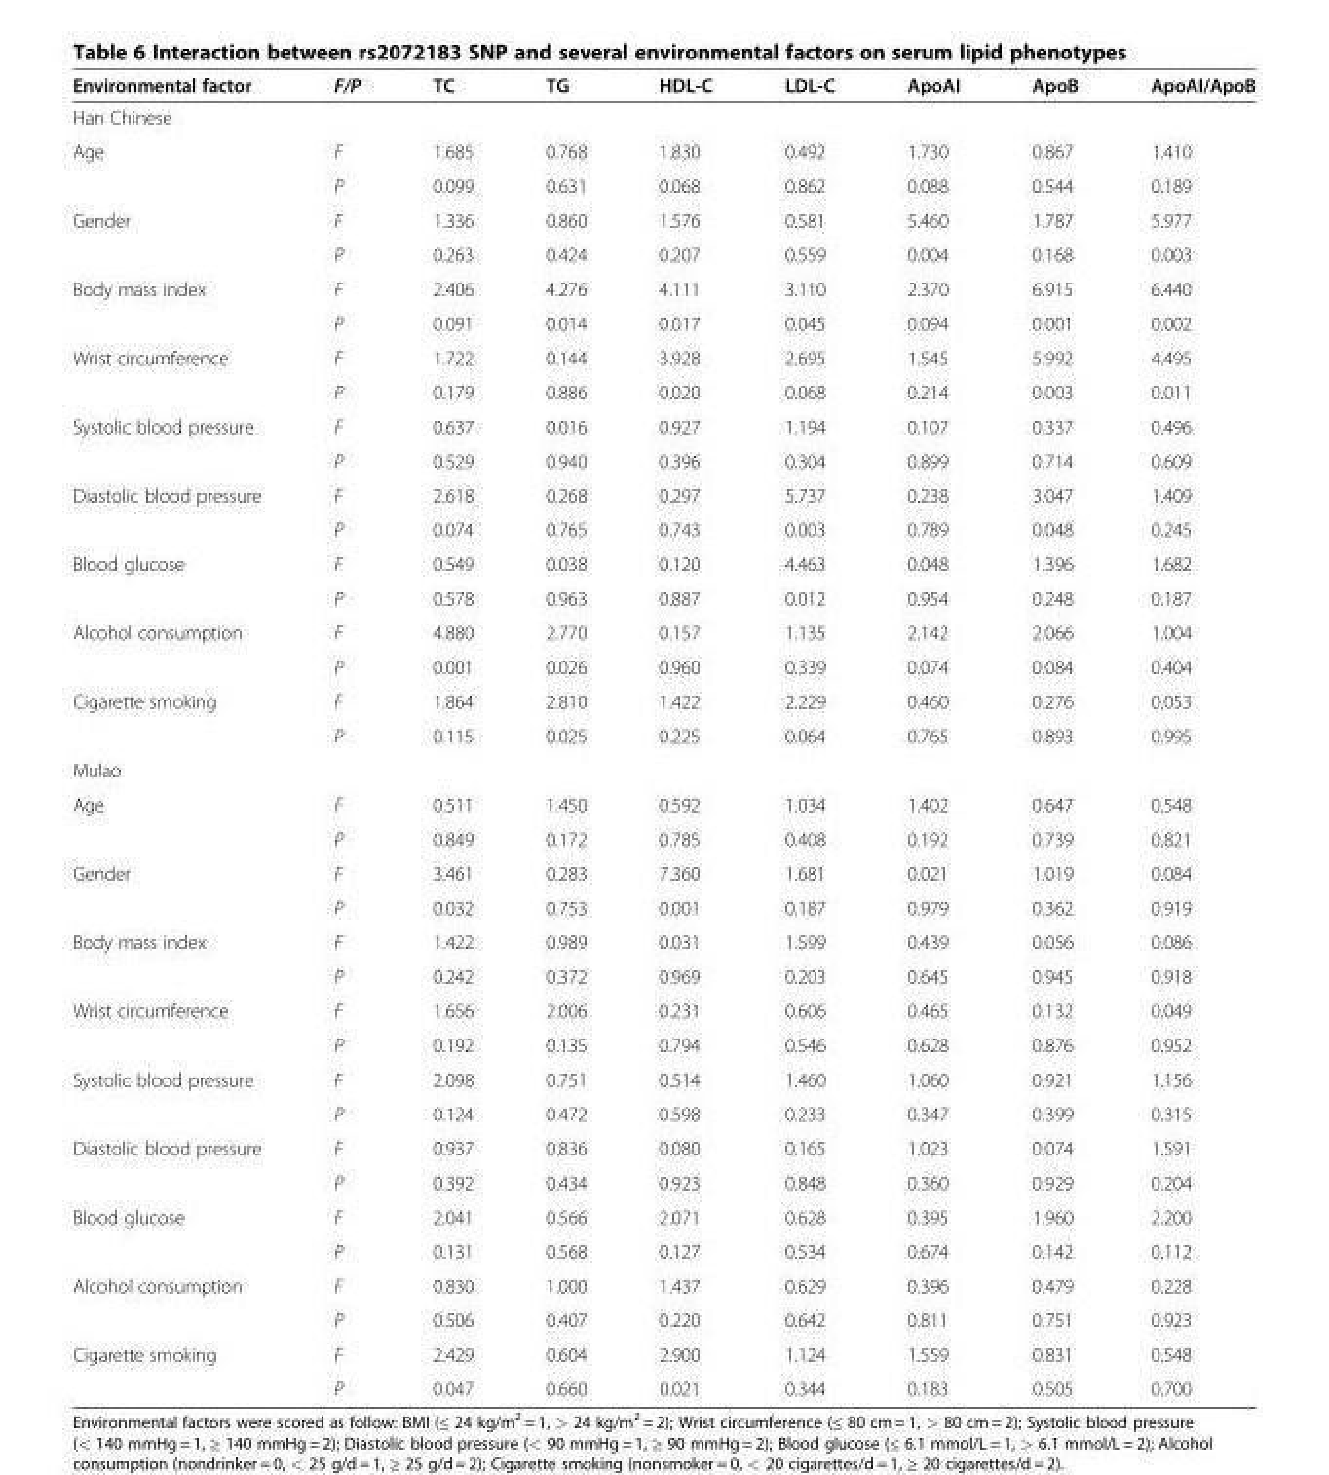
<table><thead><tr><td>Environmental factor</td><td>F/P</td><td>TC</td><td>TG</td><td>HDL-C</td><td>LDL-C</td><td>ApoAI</td><td>ApoB</td><td>ApoAI/ApoB</td></tr></thead><tbody><tr><td colspan="9">Han Chinese</td></tr><tr><td rowspan="2">Age</td><td>F</td><td>1.685</td><td>0.768</td><td>1.830</td><td>0.492</td><td>1.730</td><td>0.867</td><td>1.410</td></tr><tr><td>P</td><td>0.099</td><td>0.631</td><td>0.068</td><td>0.862</td><td>0.088</td><td>0.544</td><td>0.189</td></tr><tr><td rowspan="2">Gender</td><td>F</td><td>1.336</td><td>0.860</td><td>1.576</td><td>0.581</td><td>5.460</td><td>1.787</td><td>5.977</td></tr><tr><td>P</td><td>0.263</td><td>0.424</td><td>0.207</td><td>0.559</td><td>0.004</td><td>0.168</td><td>0.003</td></tr><tr><td rowspan="2">Body mass index</td><td>F</td><td>2.406</td><td>4.276</td><td>4.111</td><td>3.110</td><td>2.370</td><td>6.915</td><td>6.440</td></tr><tr><td>P</td><td>0.091</td><td>0.014</td><td>0.017</td><td>0.045</td><td>0.094</td><td>0.001</td><td>0.002</td></tr><tr><td rowspan="2">Wrist circumference</td><td>F</td><td>1.722</td><td>0.144</td><td>3.928</td><td>2.695</td><td>1.545</td><td>5.992</td><td>4.495</td></tr><tr><td>P</td><td>0.179</td><td>0.886</td><td>0.020</td><td>0.068</td><td>0.214</td><td>0.003</td><td>0.011</td></tr><tr><td rowspan="2">Systolic blood pressure</td><td>F</td><td>0.637</td><td>0.016</td><td>0.927</td><td>1.194</td><td>0.107</td><td>0.337</td><td>0.496</td></tr><tr><td>P</td><td>0.529</td><td>0.940</td><td>0.396</td><td>0.304</td><td>0.899</td><td>0.714</td><td>0.609</td></tr><tr><td rowspan="2">Diastolic blood pressure</td><td>F</td><td>2.618</td><td>0.268</td><td>0.297</td><td>5.737</td><td>0.238</td><td>3.047</td><td>1.409</td></tr><tr><td>P</td><td>0.074</td><td>0.765</td><td>0.743</td><td>0.003</td><td>0.789</td><td>0.048</td><td>0.245</td></tr><tr><td rowspan="2">Blood glucose</td><td>F</td><td>0.549</td><td>0.038</td><td>0.120</td><td>4.463</td><td>0.048</td><td>1.396</td><td>1.682</td></tr><tr><td>P</td><td>0.578</td><td>0.963</td><td>0.887</td><td>0.012</td><td>0.954</td><td>0.248</td><td>0.187</td></tr><tr><td rowspan="2">Alcohol consumption</td><td>F</td><td>4.880</td><td>2.770</td><td>0.157</td><td>1.135</td><td>2.142</td><td>2.066</td><td>1.004</td></tr><tr><td>P</td><td>0.001</td><td>0.026</td><td>0.960</td><td>0.339</td><td>0.074</td><td>0.084</td><td>0.404</td></tr><tr><td rowspan="2">Cigarette smoking</td><td>F</td><td>1.864</td><td>2.810</td><td>1.422</td><td>2.229</td><td>0.460</td><td>0.276</td><td>0.053</td></tr><tr><td>P</td><td>0.115</td><td>0.025</td><td>0.225</td><td>0.064</td><td>0.765</td><td>0.893</td><td>0.995</td></tr><tr><td colspan="9">Mulao</td></tr><tr><td rowspan="2">Age</td><td>F</td><td>0.511</td><td>1.450</td><td>0.592</td><td>1.034</td><td>1.402</td><td>0.647</td><td>0.548</td></tr><tr><td>P</td><td>0.849</td><td>0.172</td><td>0.785</td><td>0.408</td><td>0.192</td><td>0.739</td><td>0.821</td></tr><tr><td rowspan="2">Gender</td><td>F</td><td>3.461</td><td>0.283</td><td>7.360</td><td>1.681</td><td>0.021</td><td>1.019</td><td>0.084</td></tr><tr><td>P</td><td>0.032</td><td>0.753</td><td>0.001</td><td>0.187</td><td>0.979</td><td>0.362</td><td>0.919</td></tr><tr><td rowspan="2">Body mass index</td><td>F</td><td>1.422</td><td>0.989</td><td>0.031</td><td>1.599</td><td>0.439</td><td>0.056</td><td>0.086</td></tr><tr><td>P</td><td>0.242</td><td>0.372</td><td>0.969</td><td>0.203</td><td>0.645</td><td>0.945</td><td>0.918</td></tr><tr><td rowspan="2">Wrist circumference</td><td>F</td><td>1.656</td><td>2.006</td><td>0.231</td><td>0.606</td><td>0.465</td><td>0.132</td><td>0.049</td></tr><tr><td>P</td><td>0.192</td><td>0.135</td><td>0.794</td><td>0.546</td><td>0.628</td><td>0.876</td><td>0.952</td></tr><tr><td rowspan="2">Systolic blood pressure</td><td>F</td><td>2.098</td><td>0.751</td><td>0.514</td><td>1.460</td><td>1.060</td><td>0.921</td><td>1.156</td></tr><tr><td>P</td><td>0.124</td><td>0.472</td><td>0.598</td><td>0.233</td><td>0.347</td><td>0.399</td><td>0.315</td></tr><tr><td rowspan="2">Diastolic blood pressure</td><td>F</td><td>0.937</td><td>0.836</td><td>0.080</td><td>0.165</td><td>1.023</td><td>0.074</td><td>1.591</td></tr><tr><td>P</td><td>0.392</td><td>0.434</td><td>0.923</td><td>0.848</td><td>0.360</td><td>0.929</td><td>0.204</td></tr><tr><td rowspan="2">Blood glucose</td><td>F</td><td>2.041</td><td>0.566</td><td>2.071</td><td>0.628</td><td>0.395</td><td>1.960</td><td>2.200</td></tr><tr><td>P</td><td>0.131</td><td>0.568</td><td>0.127</td><td>0.534</td><td>0.674</td><td>0.142</td><td>0.112</td></tr><tr><td rowspan="2">Alcohol consumption</td><td>F</td><td>0.830</td><td>1.000</td><td>1.437</td><td>0.629</td><td>0.396</td><td>0.479</td><td>0.228</td></tr><tr><td>P</td><td>0.506</td><td>0.407</td><td>0.220</td><td>0.642</td><td>0.811</td><td>0.751</td><td>0.923</td></tr><tr><td rowspan="2">Cigarette smoking</td><td>F</td><td>2.429</td><td>0.604</td><td>2.900</td><td>1.124</td><td>1.559</td><td>0.831</td><td>0.548</td></tr><tr><td>P</td><td>0.047</td><td>0.660</td><td>0.021</td><td>0.344</td><td>0.183</td><td>0.505</td><td>0.700</td></tr></tbody></table>